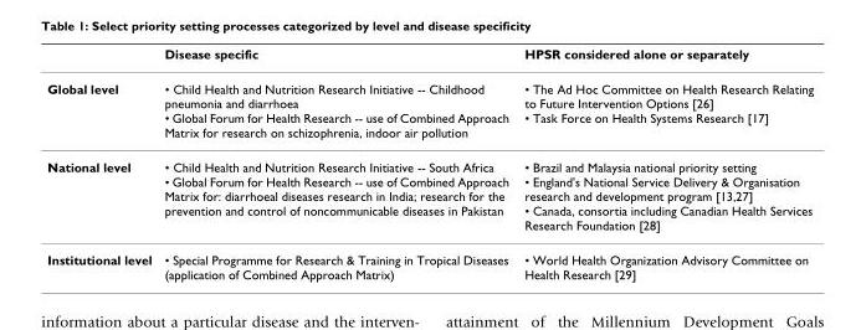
<table><thead><tr><td></td><td>Disease specific</td><td>HPSR considered alone or separately</td></tr></thead><tbody><tr><td>Global level</td><td>• Child Health and Nutrition Research Initiative -- Childhood pneumonia and diarrhoea • Global Forum for Health Research -- use of Combined Approach Matrix for research on schizophrenia, indoor air pollution</td><td>• The Ad Hoc Committee on Health Research Relating to Future Intervention Options [26] • Task Force on Health Systems Research [17]</td></tr><tr><td>National level</td><td>• Child Health and Nutrition Research Initiative -- South Africa • Global Forum for Health Research -- use of Combined Approach Matrix for: diarrhoeal diseases research in India; research for the prevention and control of noncommunicable diseases in Pakistan</td><td>• Brazil and Malaysia national priority setting • England&#x27;s National Service Delivery &amp; Organisation research and development program [13,27] • Canada, consortia including Canadian Health Services Research Foundation [28]</td></tr><tr><td>Institutional level</td><td>• Special Programme for Research &amp; Training in Tropical Diseases (application of Combined Approach Matrix)</td><td>• World Health Organization Advisory Committee on Health Research [29]</td></tr></tbody></table>